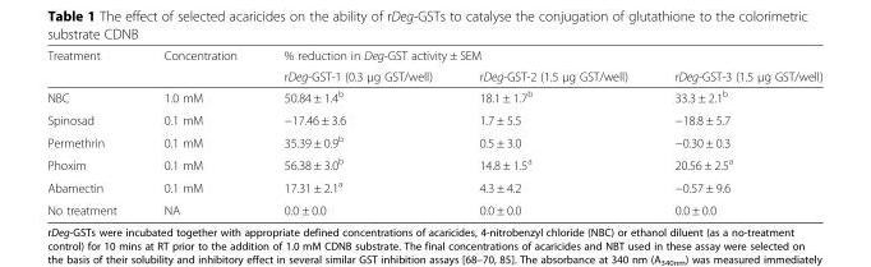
<table><thead><tr><td rowspan="2">Treatment</td><td rowspan="2">Concentration</td><td colspan="3">% reduction in Deg-GST activity ± SEM</td></tr><tr><td>rDeg-GST-1 (0.3 μg GST/well)</td><td>rDeg-GST-2 (1.5 μg GST/well)</td><td>rDeg-GST-3 (1.5 μg GST/well)</td></tr></thead><tbody><tr><td>NBC</td><td>1.0 mM</td><td>50.84 ± 1.4<sup>b</sup></td><td>18.1 ± 1.7<sup>b</sup></td><td>33.3 ± 2.1<sup>b</sup></td></tr><tr><td>Spinosad</td><td>0.1 mM</td><td>−17.46 ± 3.6</td><td>1.7 ± 5.5</td><td>−18.8 ± 5.7</td></tr><tr><td>Permethrin</td><td>0.1 mM</td><td>35.39 ± 0.9<sup>b</sup></td><td>0.5 ± 3.0</td><td>−0.30 ± 0.3</td></tr><tr><td>Phoxim</td><td>0.1 mM</td><td>56.38 ± 3.0<sup>b</sup></td><td>14.8 ± 1.5<sup>a</sup></td><td>20.56 ± 2.5<sup>a</sup></td></tr><tr><td>Abamectin</td><td>0.1 mM</td><td>17.31 ± 2.1<sup>a</sup></td><td>4.3 ± 4.2</td><td>−0.57 ± 9.6</td></tr><tr><td>No treatment</td><td>NA</td><td>0.0 ± 0.0</td><td>0.0 ± 0.0</td><td>0.0 ± 0.0</td></tr></tbody></table>